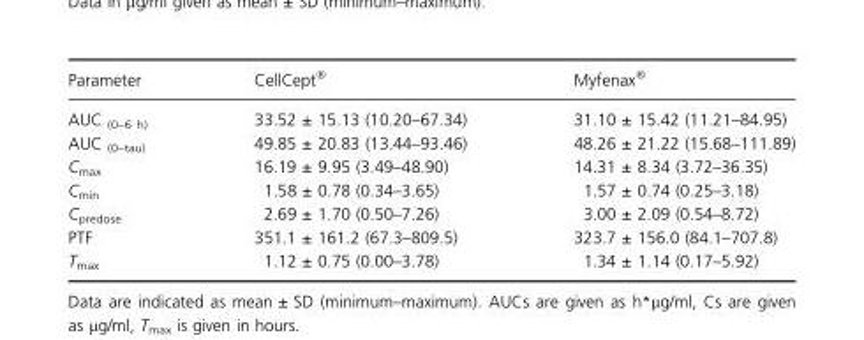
<table><thead><tr><td>Parameter</td><td>CellCept®</td><td>Myfenax®</td></tr></thead><tbody><tr><td>AUC <sub>(0–6 h)</sub></td><td>33.52 ± 15.13 (10.20–67.34)</td><td>31.10 ± 15.42 (11.21–84.95)</td></tr><tr><td>AUC <sub>(0–tau)</sub></td><td>49.85 ± 20.83 (13.44–93.46)</td><td>48.26 ± 21.22 (15.68–111.89)</td></tr><tr><td>C<sub>max</sub></td><td>16.19 ± 9.95 (3.49–48.90)</td><td>14.31 ± 8.34 (3.72–36.35)</td></tr><tr><td>C<sub>min</sub></td><td>1.58 ± 0.78 (0.34–3.65)</td><td>1.57 ± 0.74 (0.25–3.18)</td></tr><tr><td>C<sub>predose</sub></td><td>2.69 ± 1.70 (0.50–7.26)</td><td>3.00 ± 2.09 (0.54–8.72)</td></tr><tr><td>PTF</td><td>351.1 ± 161.2 (67.3–809.5)</td><td>323.7 ± 156.0 (84.1–707.8)</td></tr><tr><td>T<sub>max</sub></td><td>1.12 ± 0.75 (0.00–3.78)</td><td>1.34 ± 1.14 (0.17–5.92)</td></tr></tbody></table>